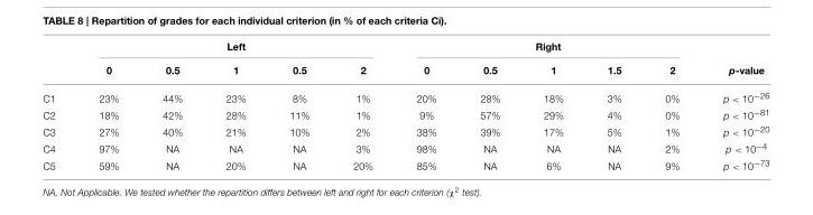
<table><thead><tr><td rowspan="2"></td><td colspan="5">Left</td><td colspan="5">Right</td><td rowspan="2">p-value</td></tr><tr><td>0</td><td>0.5</td><td>1</td><td>0.5</td><td>2</td><td>0</td><td>0.5</td><td>1</td><td>1.5</td><td>2</td></tr></thead><tbody><tr><td>C1</td><td>23%</td><td>44%</td><td>23%</td><td>8%</td><td>1%</td><td>20%</td><td>28%</td><td>18%</td><td>3%</td><td>0%</td><td>p &lt; 10<sup>−26</sup></td></tr><tr><td>C2</td><td>18%</td><td>42%</td><td>28%</td><td>11%</td><td>1%</td><td>9%</td><td>57%</td><td>29%</td><td>4%</td><td>0%</td><td>p &lt; 10<sup>−81</sup></td></tr><tr><td>C3</td><td>27%</td><td>40%</td><td>21%</td><td>10%</td><td>2%</td><td>38%</td><td>39%</td><td>17%</td><td>5%</td><td>1%</td><td>p &lt; 10<sup>−20</sup></td></tr><tr><td>C4</td><td>97%</td><td>NA</td><td>NA</td><td>NA</td><td>3%</td><td>98%</td><td>NA</td><td>NA</td><td>NA</td><td>2%</td><td>p &lt; 10<sup>−4</sup></td></tr><tr><td>C5</td><td>59%</td><td>NA</td><td>20%</td><td>NA</td><td>20%</td><td>85%</td><td>NA</td><td>6%</td><td>NA</td><td>9%</td><td>p &lt; 10<sup>−73</sup></td></tr></tbody></table>